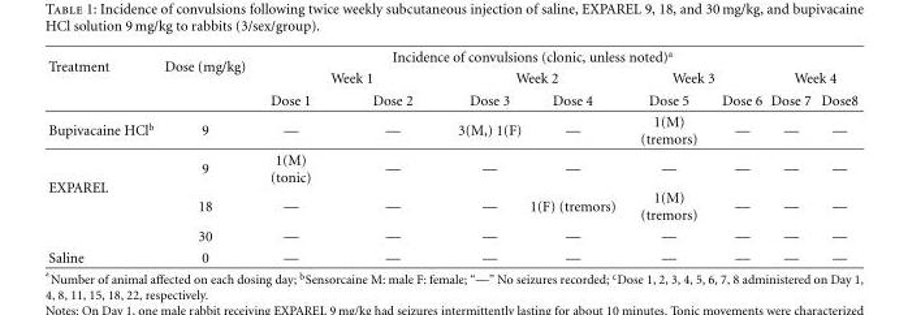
<table><thead><tr><td rowspan="3">Treatment</td><td rowspan="3">Dose (mg/kg)</td><td colspan="7">Incidence of convulsions (clonic, unless noted)<sup>a</sup></td><td></td></tr><tr><td colspan="2">Week 1</td><td colspan="2">Week 2</td><td colspan="2">Week 3</td><td colspan="2">Week 4</td></tr><tr><td>Dose 1</td><td>Dose 2</td><td>Dose 3</td><td>Dose 4</td><td>Dose 5</td><td>Dose 6</td><td>Dose 7</td><td>Dose8</td></tr></thead><tbody><tr><td>Bupivacaine HCl<sup>b</sup></td><td>9</td><td>—</td><td>—</td><td>3(M,) 1(F)</td><td>—</td><td>1(M) (tremors)</td><td>—</td><td>—</td><td>—</td></tr><tr><td rowspan="3">EXPAREL</td><td>9</td><td>1(M) (tonic)</td><td>—</td><td>—</td><td>—</td><td>—</td><td>—</td><td>—</td><td>—</td></tr><tr><td>18</td><td>—</td><td>—</td><td>—</td><td>1(F) (tremors)</td><td>1(M) (tremors)</td><td>—</td><td>—</td><td>—</td></tr><tr><td>30</td><td>—</td><td>—</td><td>—</td><td>—</td><td>—</td><td>—</td><td>—</td><td>—</td></tr><tr><td>Saline</td><td>0</td><td>—</td><td>—</td><td>—</td><td>—</td><td>—</td><td>—</td><td>—</td><td>—</td></tr></tbody></table>